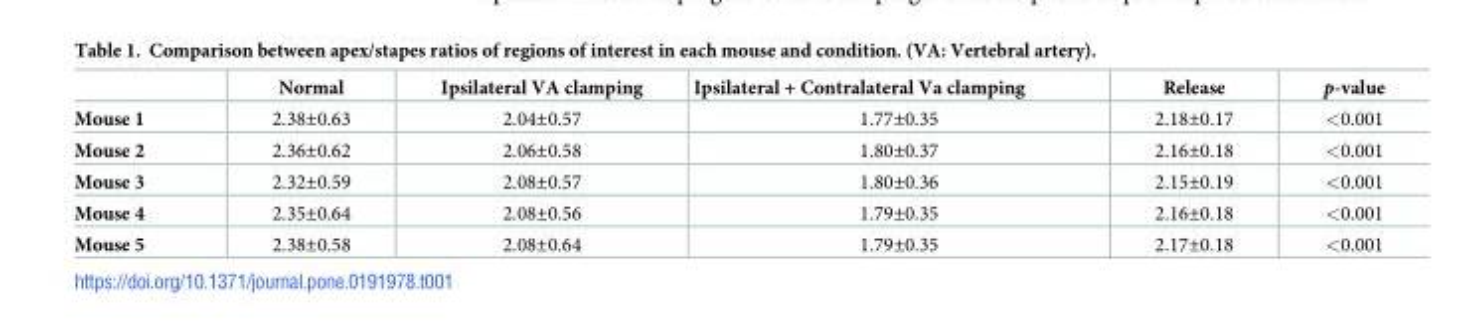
<table><thead><tr><td></td><td>Normal</td><td>Ipsilateral VA clamping</td><td>Ipsilateral + Contralateral Va clamping</td><td>Release</td><td>p-value</td></tr></thead><tbody><tr><td>Mouse 1</td><td>2.38±0.63</td><td>2.04±0.57</td><td>1.77±0.35</td><td>2.18±0.17</td><td>&lt;0.001</td></tr><tr><td>Mouse 2</td><td>2.36±0.62</td><td>2.06±0.58</td><td>1.80±0.37</td><td>2.16±0.18</td><td>&lt;0.001</td></tr><tr><td>Mouse 3</td><td>2.32±0.59</td><td>2.08±0.57</td><td>1.80±0.36</td><td>2.15±0.19</td><td>&lt;0.001</td></tr><tr><td>Mouse 4</td><td>2.35±0.64</td><td>2.08±0.56</td><td>1.79±0.35</td><td>2.16±0.18</td><td>&lt;0.001</td></tr><tr><td>Mouse 5</td><td>2.38±0.58</td><td>2.08±0.64</td><td>1.79±0.35</td><td>2.17±0.18</td><td>&lt;0.001</td></tr></tbody></table>